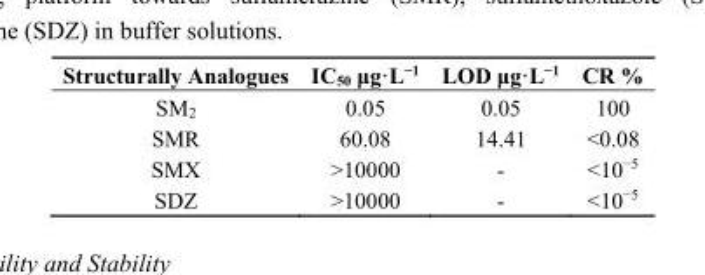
<table><thead><tr><td>Structurally Analogues</td><td>IC<sub>50</sub> μg·L<sup>−1</sup></td><td>LOD μg·L<sup>−1</sup></td><td>CR %</td></tr></thead><tbody><tr><td>SM<sub>2</sub></td><td>0.05</td><td>0.05</td><td>100</td></tr><tr><td>SMR</td><td>60.08</td><td>14.41</td><td>&lt;0.08</td></tr><tr><td>SMX</td><td>&gt;10000</td><td>-</td><td>&lt;10<sup>−5</sup></td></tr><tr><td>SDZ</td><td>&gt;10000</td><td>-</td><td>&lt;10<sup>−5</sup></td></tr></tbody></table>